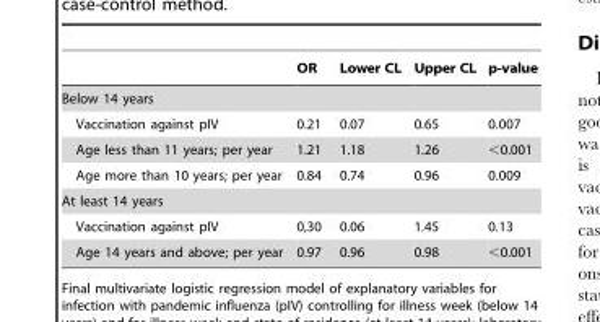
<table><thead><tr><td></td><td>OR</td><td>Lower CL</td><td>Upper CL</td><td>p-value</td></tr></thead><tbody><tr><td colspan="5">Below 14 years</td></tr><tr><td>Vaccination against pIV</td><td>0.21</td><td>0.07</td><td>0.65</td><td>0.007</td></tr><tr><td>Age less than 11 years; per year</td><td>1.21</td><td>1.18</td><td>1.26</td><td>&lt;0.001</td></tr><tr><td>Age more than 10 years; per year</td><td>0.84</td><td>0.74</td><td>0.96</td><td>0.009</td></tr><tr><td colspan="5">At least 14 years</td></tr><tr><td>Vaccination against pIV</td><td>0,30</td><td>0.06</td><td>1.45</td><td>0.13</td></tr><tr><td>Age 14 years and above; per year</td><td>0.97</td><td>0.96</td><td>0.98</td><td>&lt;0.001</td></tr></tbody></table>